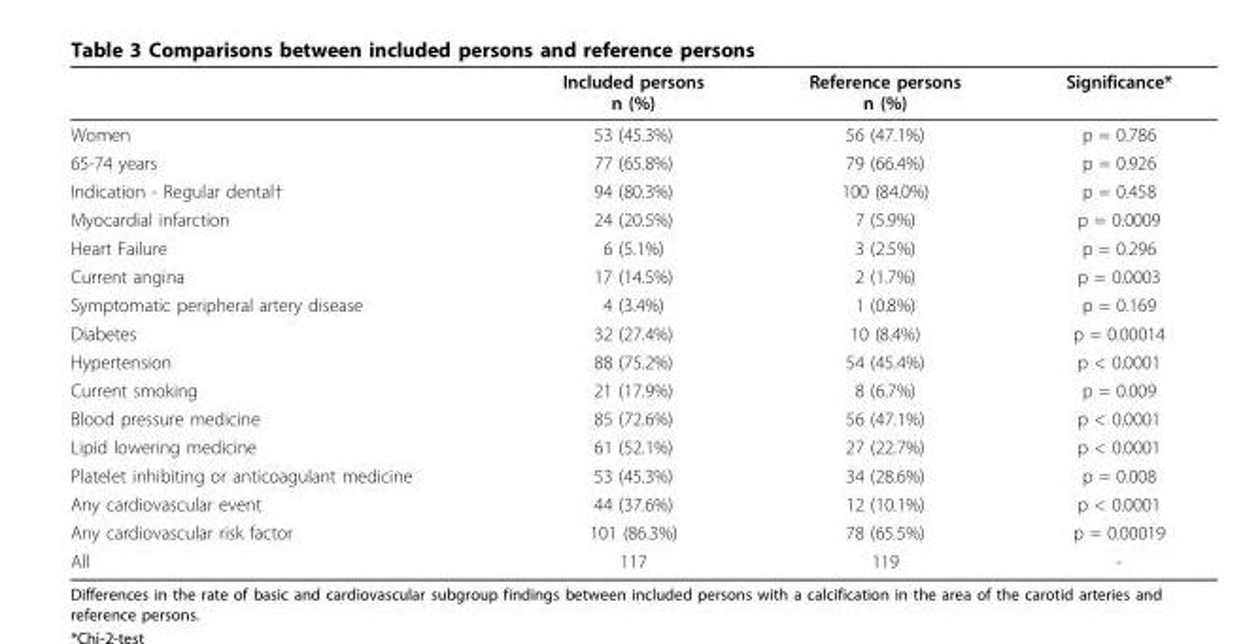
<table><thead><tr><td></td><td>Included persons n (%)</td><td>Reference persons n (%)</td><td>Significance*</td></tr></thead><tbody><tr><td>Women</td><td>53 (45.3%)</td><td>56 (47.1%)</td><td>p = 0.786</td></tr><tr><td>65-74 years</td><td>77 (65.8%)</td><td>79 (66.4%)</td><td>p = 0.926</td></tr><tr><td>Indication - Regular dental†</td><td>94 (80.3%)</td><td>100 (84.0%)</td><td>p = 0.458</td></tr><tr><td>Myocardial infarction</td><td>24 (20.5%)</td><td>7 (5.9%)</td><td>p = 0.0009</td></tr><tr><td>Heart Failure</td><td>6 (5.1%)</td><td>3 (2.5%)</td><td>p = 0.296</td></tr><tr><td>Current angina</td><td>17 (14.5%)</td><td>2 (1.7%)</td><td>p = 0.0003</td></tr><tr><td>Symptomatic peripheral artery disease</td><td>4 (3.4%)</td><td>1 (0.8%)</td><td>p = 0.169</td></tr><tr><td>Diabetes</td><td>32 (27.4%)</td><td>10 (8.4%)</td><td>p = 0.00014</td></tr><tr><td>Hypertension</td><td>88 (75.2%)</td><td>54 (45.4%)</td><td>p &lt; 0.0001</td></tr><tr><td>Current smoking</td><td>21 (17.9%)</td><td>8 (6.7%)</td><td>p = 0.009</td></tr><tr><td>Blood pressure medicine</td><td>85 (72.6%)</td><td>56 (47.1%)</td><td>p &lt; 0.0001</td></tr><tr><td>Lipid lowering medicine</td><td>61 (52.1%)</td><td>27 (22.7%)</td><td>p &lt; 0.0001</td></tr><tr><td>Platelet inhibiting or anticoagulant medicine</td><td>53 (45.3%)</td><td>34 (28.6%)</td><td>p = 0.008</td></tr><tr><td>Any cardiovascular event</td><td>44 (37.6%)</td><td>12 (10.1%)</td><td>p &lt; 0.0001</td></tr><tr><td>Any cardiovascular risk factor</td><td>101 (86.3%)</td><td>78 (65.5%)</td><td>p = 0.00019</td></tr><tr><td>All</td><td>117</td><td>119</td><td>-</td></tr></tbody></table>